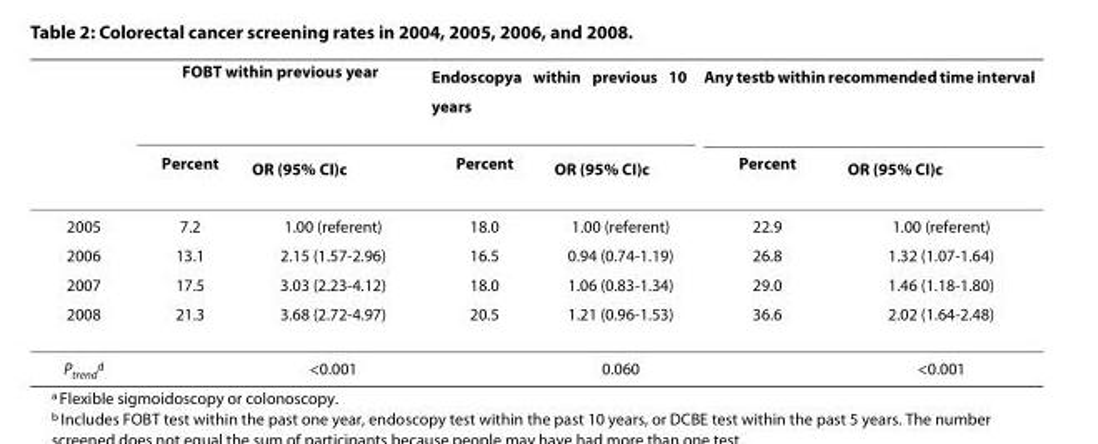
<table><thead><tr><td rowspan="2"></td><td colspan="2">FOBT within previous year</td><td colspan="2">Endoscopy<sup>a</sup> within previous 10 years</td><td colspan="2">Any test<sup>b</sup> within recommended time interval</td></tr><tr><td>Percent</td><td>OR (95% CI)<sup>c</sup></td><td>Percent</td><td>OR (95% CI)<sup>c</sup></td><td>Percent</td><td>OR (95% CI)<sup>c</sup></td></tr></thead><tbody><tr><td>2005</td><td>7.2</td><td>1.00 (referent)</td><td>18.0</td><td>1.00 (referent)</td><td>22.9</td><td>1.00 (referent)</td></tr><tr><td>2006</td><td>13.1</td><td>2.15 (1.57-2.96)</td><td>16.5</td><td>0.94 (0.74-1.19)</td><td>26.8</td><td>1.32 (1.07-1.64)</td></tr><tr><td>2007</td><td>17.5</td><td>3.03 (2.23-4.12)</td><td>18.0</td><td>1.06 (0.83-1.34)</td><td>29.0</td><td>1.46 (1.18-1.80)</td></tr><tr><td>2008</td><td>21.3</td><td>3.68 (2.72-4.97)</td><td>20.5</td><td>1.21 (0.96-1.53)</td><td>36.6</td><td>2.02 (1.64-2.48)</td></tr><tr><td>P<sub>trend</sub><sup>d</sup></td><td></td><td>&lt;0.001</td><td></td><td>0.060</td><td></td><td>&lt;0.001</td></tr></tbody></table>